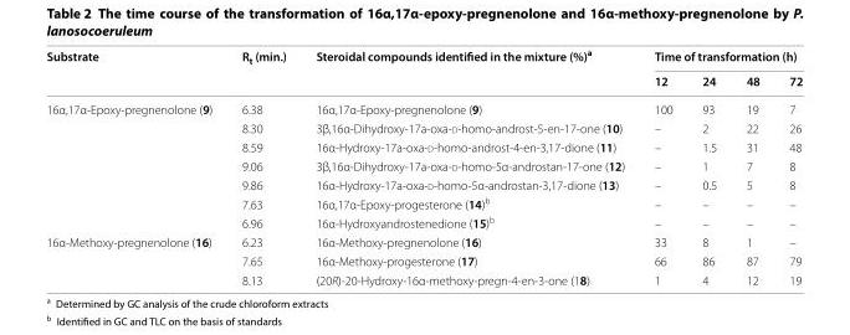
<table><thead><tr><td rowspan="2">Substrate</td><td rowspan="2">R<sub>t</sub> (min.)</td><td rowspan="2">Steroidal compounds identified in the mixture (%)<sup>a</sup></td><td colspan="4">Time of transformation (h)</td></tr><tr><td>12</td><td>24</td><td>48</td><td>72</td></tr></thead><tbody><tr><td rowspan="7">16α,17α-Epoxy-pregnenolone (9)</td><td>6.38</td><td>16α,17α-Epoxy-pregnenolone (9)</td><td>100</td><td>93</td><td>19</td><td>7</td></tr><tr><td>8.30</td><td>3β,16α-Dihydroxy-17a-oxa-d-homo-androst-5-en-17-one (10)</td><td>–</td><td>2</td><td>22</td><td>26</td></tr><tr><td>8.59</td><td>16α-Hydroxy-17a-oxa-d-homo-androst-4-en-3,17-dione (11)</td><td>–</td><td>1.5</td><td>31</td><td>48</td></tr><tr><td>9.06</td><td>3β,16α-Dihydroxy-17a-oxa-d-homo-5α-androstan-17-one (12)</td><td>–</td><td>1</td><td>7</td><td>8</td></tr><tr><td>9.86</td><td>16α-Hydroxy-17a-oxa-d-homo-5α-androstan-3,17-dione (13)</td><td>–</td><td>0.5</td><td>5</td><td>8</td></tr><tr><td>7.63</td><td>16α,17α-Epoxy-progesterone (14)<sup>b</sup></td><td>–</td><td>–</td><td>–</td><td>–</td></tr><tr><td>6.96</td><td>16α-Hydroxyandrostenedione (15)<sup>b</sup></td><td>–</td><td>–</td><td>–</td><td>–</td></tr><tr><td rowspan="3">16α-Methoxy-pregnenolone (16)</td><td>6.23</td><td>16α-Methoxy-pregnenolone (16)</td><td>33</td><td>8</td><td>1</td><td>–</td></tr><tr><td>7.65</td><td>16α-Methoxy-progesterone (17)</td><td>66</td><td>86</td><td>87</td><td>79</td></tr><tr><td>8.13</td><td>(20R)-20-Hydroxy-16α-methoxy-pregn-4-en-3-one (18)</td><td>1</td><td>4</td><td>12</td><td>19</td></tr></tbody></table>